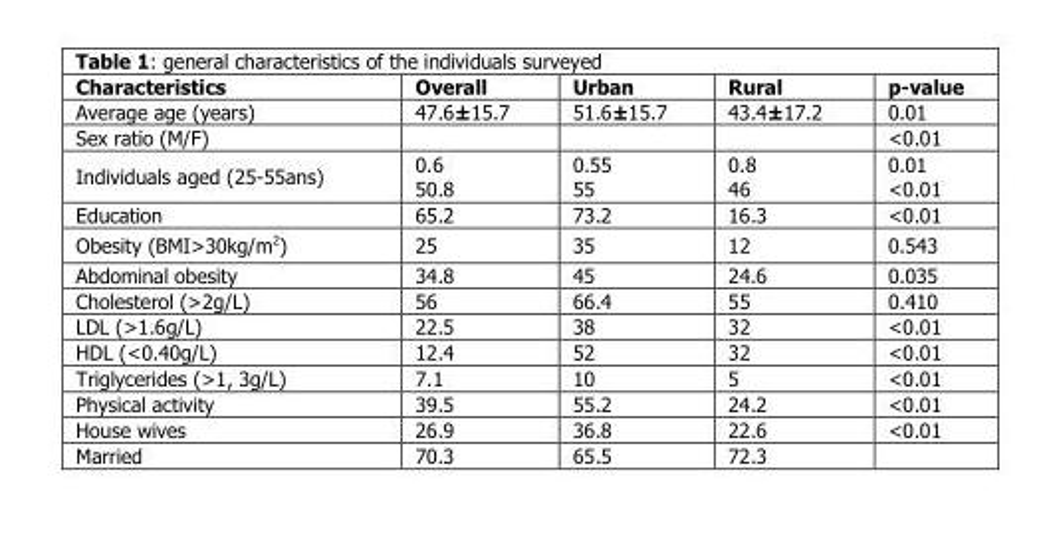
<table><thead><tr><td>Characteristics</td><td>Overall</td><td>Urban</td><td>Rural</td><td>p-value</td></tr></thead><tbody><tr><td>Average age (years)</td><td>47.6±15.7</td><td>51.6±15.7</td><td>43.4±17.2</td><td>0.01</td></tr><tr><td>Sex ratio (M/F)</td><td></td><td></td><td></td><td>&lt;0.01</td></tr><tr><td>Individuals aged (25-55ans)</td><td>0.6 50.8</td><td>0.55 55</td><td>0.8 46</td><td>0.01 &lt;0.01</td></tr><tr><td>Education</td><td>65.2</td><td>73.2</td><td>16.3</td><td>&lt;0.01</td></tr><tr><td>Obesity (BMI&gt;30kg/m<sup>2</sup>)</td><td>25</td><td>35</td><td>12</td><td>0.543</td></tr><tr><td>Abdominal obesity</td><td>34.8</td><td>45</td><td>24.6</td><td>0.035</td></tr><tr><td>Cholesterol (&gt;2g/L)</td><td>56</td><td>66.4</td><td>55</td><td>0.410</td></tr><tr><td>LDL (&gt;1.6g/L)</td><td>22.5</td><td>38</td><td>32</td><td>&lt;0.01</td></tr><tr><td>HDL (&lt;0.40g/L)</td><td>12.4</td><td>52</td><td>32</td><td>&lt;0.01</td></tr><tr><td>Triglycerides (&gt;1, 3g/L)</td><td>7.1</td><td>10</td><td>5</td><td>&lt;0.01</td></tr><tr><td>Physical activity</td><td>39.5</td><td>55.2</td><td>24.2</td><td>&lt;0.01</td></tr><tr><td>House wives</td><td>26.9</td><td>36.8</td><td>22.6</td><td>&lt;0.01</td></tr><tr><td>Married</td><td>70.3</td><td>65.5</td><td>72.3</td><td></td></tr></tbody></table>